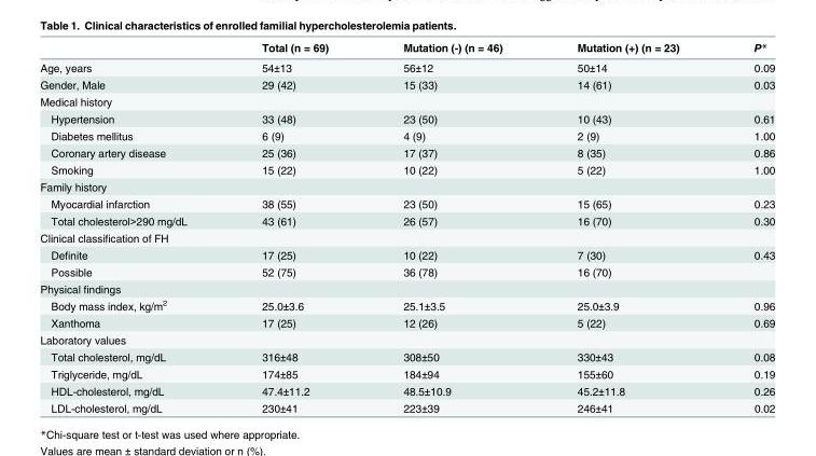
<table><thead><tr><td></td><td>Total (n = 69)</td><td>Mutation (-) (n = 46)</td><td>Mutation (+) (n = 23)</td><td>P*</td></tr></thead><tbody><tr><td>Age, years</td><td>54±13</td><td>56±12</td><td>50±14</td><td>0.09</td></tr><tr><td>Gender, Male</td><td>29 (42)</td><td>15 (33)</td><td>14 (61)</td><td>0.03</td></tr><tr><td colspan="5">Medical history</td></tr><tr><td>Hypertension</td><td>33 (48)</td><td>23 (50)</td><td>10 (43)</td><td>0.61</td></tr><tr><td>Diabetes mellitus</td><td>6 (9)</td><td>4 (9)</td><td>2 (9)</td><td>1.00</td></tr><tr><td>Coronary artery disease</td><td>25 (36)</td><td>17 (37)</td><td>8 (35)</td><td>0.86</td></tr><tr><td>Smoking</td><td>15 (22)</td><td>10 (22)</td><td>5 (22)</td><td>1.00</td></tr><tr><td colspan="5">Family history</td></tr><tr><td>Myocardial infarction</td><td>38 (55)</td><td>23 (50)</td><td>15 (65)</td><td>0.23</td></tr><tr><td>Total cholesterol&gt;290 mg/dL</td><td>43 (61)</td><td>26 (57)</td><td>16 (70)</td><td>0.30</td></tr><tr><td colspan="5">Clinical classification of FH</td></tr><tr><td>Definite</td><td>17 (25)</td><td>10 (22)</td><td>7 (30)</td><td>0.43</td></tr><tr><td>Possible</td><td>52 (75)</td><td>36 (78)</td><td>16 (70)</td><td></td></tr><tr><td colspan="5">Physical findings</td></tr><tr><td>Body mass index, kg/m<sup>2</sup></td><td>25.0±3.6</td><td>25.1±3.5</td><td>25.0±3.9</td><td>0.96</td></tr><tr><td>Xanthoma</td><td>17 (25)</td><td>12 (26)</td><td>5 (22)</td><td>0.69</td></tr><tr><td colspan="5">Laboratory values</td></tr><tr><td>Total cholesterol, mg/dL</td><td>316±48</td><td>308±50</td><td>330±43</td><td>0.08</td></tr><tr><td>Triglyceride, mg/dL</td><td>174±85</td><td>184±94</td><td>155±60</td><td>0.19</td></tr><tr><td>HDL-cholesterol, mg/dL</td><td>47.4±11.2</td><td>48.5±10.9</td><td>45.2±11.8</td><td>0.26</td></tr><tr><td>LDL-cholesterol, mg/dL</td><td>230±41</td><td>223±39</td><td>246±41</td><td>0.02</td></tr></tbody></table>